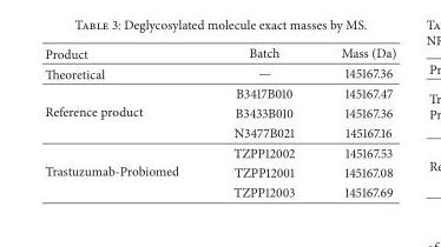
<table><thead><tr><td>Product</td><td>Batch</td><td>Mass (Da)</td></tr></thead><tbody><tr><td>Theoretical</td><td>—</td><td>145167.36</td></tr><tr><td rowspan="3">Reference product</td><td>B3417B010</td><td>145167.47</td></tr><tr><td>B3433B010</td><td>145167.36</td></tr><tr><td>N3477B021</td><td>145167.16</td></tr><tr><td rowspan="3">Trastuzumab-Probiomed</td><td>TZPP12002</td><td>145167.53</td></tr><tr><td>TZPP12001</td><td>145167.08</td></tr><tr><td>TZPP12003</td><td>145167.69</td></tr></tbody></table>